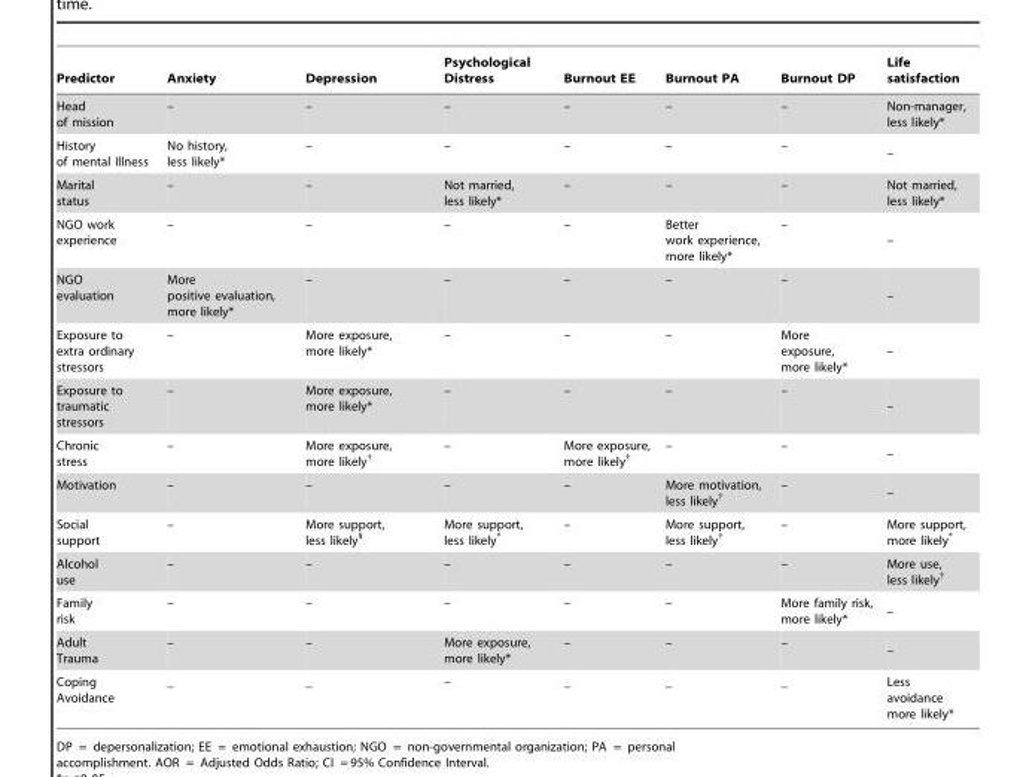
<table><thead><tr><td>Predictor</td><td>Anxiety</td><td>Depression</td><td>Psychological Distress</td><td>Burnout EE</td><td>Burnout PA</td><td>Burnout DP</td><td>Life satisfaction</td></tr></thead><tbody><tr><td>Head of mission</td><td>–</td><td>–</td><td>–</td><td>–</td><td>–</td><td>–</td><td>Non-manager, less likely*</td></tr><tr><td>History of mental Illness</td><td>No history, less likely*</td><td>–</td><td>–</td><td>–</td><td>–</td><td>–</td><td>–</td></tr><tr><td>Marital status</td><td>–</td><td>–</td><td>Not married, less likely*</td><td>–</td><td>–</td><td>–</td><td>Not married, less likely*</td></tr><tr><td>NGO work experience</td><td>–</td><td>–</td><td>–</td><td>–</td><td>Better work experience, more likely*</td><td>–</td><td>–</td></tr><tr><td>NGO evaluation</td><td>More positive evaluation, more likely*</td><td>–</td><td>–</td><td>–</td><td>–</td><td>–</td><td>–</td></tr><tr><td>Exposure to extra ordinary stressors</td><td>–</td><td>More exposure, more likely*</td><td>–</td><td>–</td><td>–</td><td>More exposure, more likely*</td><td>–</td></tr><tr><td>Exposure to traumatic stressors</td><td>–</td><td>More exposure, more likely*</td><td>–</td><td>–</td><td>–</td><td>–</td><td>–</td></tr><tr><td>Chronic stress</td><td>–</td><td>More exposure, more likely†</td><td>–</td><td>More exposure, more likely†</td><td>–</td><td>–</td><td>–</td></tr><tr><td>Motivation</td><td>–</td><td>–</td><td>–</td><td>–</td><td>More motivation, less likely†</td><td>–</td><td>–</td></tr><tr><td>Social support</td><td>–</td><td>More support, less likely§</td><td>More support, less likely*</td><td>–</td><td>More support, less likely†</td><td>–</td><td>More support, more likely*</td></tr><tr><td>Alcohol use</td><td>–</td><td>–</td><td>–</td><td>–</td><td>–</td><td>–</td><td>More use, less likely†</td></tr><tr><td>Family risk</td><td>–</td><td>–</td><td>–</td><td>–</td><td>–</td><td>More family risk, more likely*</td><td>–</td></tr><tr><td>Adult Trauma</td><td>–</td><td>–</td><td>More exposure, more likely*</td><td>–</td><td>–</td><td>–</td><td>–</td></tr><tr><td>Coping Avoidance</td><td>_</td><td>_</td><td>–</td><td>_</td><td>_</td><td>_</td><td>Less avoidance more likely*</td></tr></tbody></table>